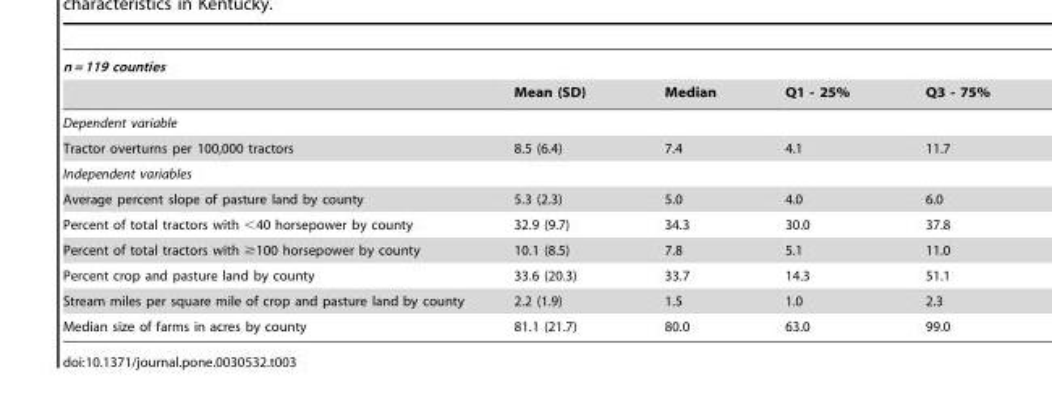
<table><thead><tr><td rowspan="2">n = 119 counties</td><td rowspan="2">Mean (SD)</td><td rowspan="2">Median</td><td rowspan="2">Q1 - 25%</td><td rowspan="2">Q3 - 75%</td></tr><tr></tr></thead><tbody><tr><td colspan="5">Dependent variable</td></tr><tr><td>Tractor overturns per 100,000 tractors</td><td>8.5 (6.4)</td><td>7.4</td><td>4.1</td><td>11.7</td></tr><tr><td colspan="5">Independent variables</td></tr><tr><td>Average percent slope of pasture land by county</td><td>5.3 (2.3)</td><td>5.0</td><td>4.0</td><td>6.0</td></tr><tr><td>Percent of total tractors with &lt;40 horsepower by county</td><td>32.9 (9.7)</td><td>34.3</td><td>30.0</td><td>37.8</td></tr><tr><td>Percent of total tractors with ≥100 horsepower by county</td><td>10.1 (8.5)</td><td>7.8</td><td>5.1</td><td>11.0</td></tr><tr><td>Percent crop and pasture land by county</td><td>33.6 (20.3)</td><td>33.7</td><td>14.3</td><td>51.1</td></tr><tr><td>Stream miles per square mile of crop and pasture land by county</td><td>2.2 (1.9)</td><td>1.5</td><td>1.0</td><td>2.3</td></tr><tr><td>Median size of farms in acres by county</td><td>81.1 (21.7)</td><td>80.0</td><td>63.0</td><td>99.0</td></tr></tbody></table>